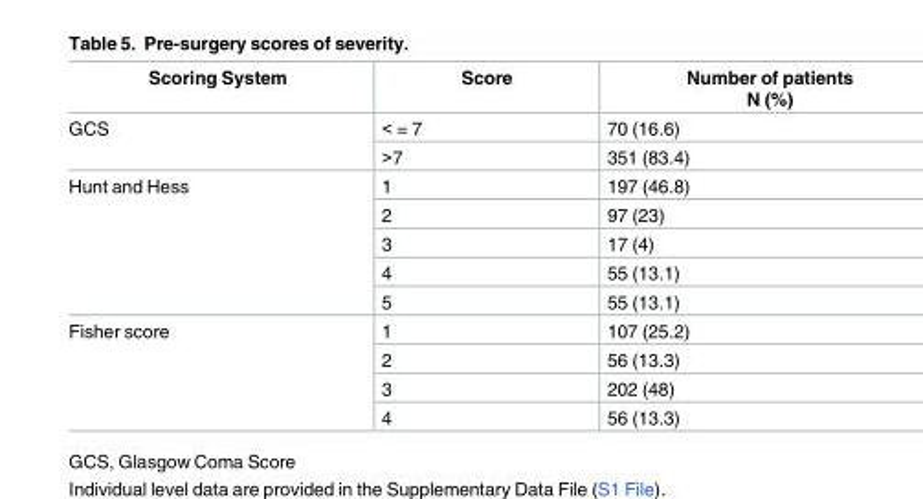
<table><thead><tr><td>Scoring System</td><td>Score</td><td>Number of patients N (%)</td></tr></thead><tbody><tr><td rowspan="2">GCS</td><td>&lt; = 7</td><td>70 (16.6)</td></tr><tr><td>&gt;7</td><td>351 (83.4)</td></tr><tr><td rowspan="5">Hunt and Hess</td><td>1</td><td>197 (46.8)</td></tr><tr><td>2</td><td>97 (23)</td></tr><tr><td>3</td><td>17 (4)</td></tr><tr><td>4</td><td>55 (13.1)</td></tr><tr><td>5</td><td>55 (13.1)</td></tr><tr><td rowspan="4">Fisher score</td><td>1</td><td>107 (25.2)</td></tr><tr><td>2</td><td>56 (13.3)</td></tr><tr><td>3</td><td>202 (48)</td></tr><tr><td>4</td><td>56 (13.3)</td></tr></tbody></table>